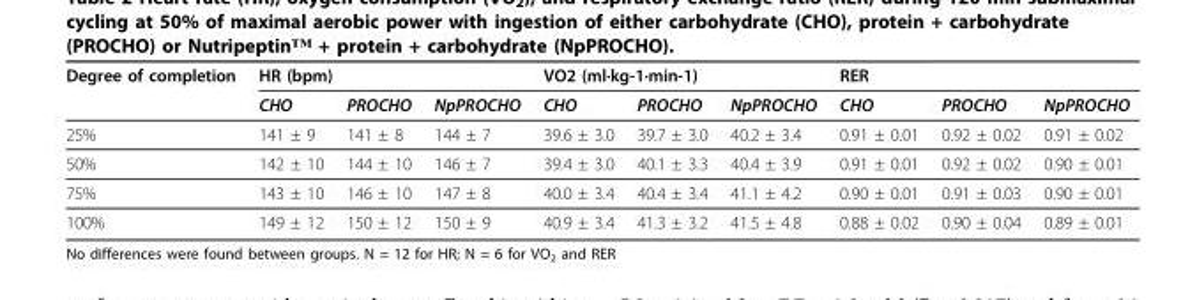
<table><thead><tr><td rowspan="2">Degree of completion</td><td colspan="3">HR (bpm)</td><td colspan="3">VO2 (ml·kg-1·min-1)</td><td colspan="3">RER</td></tr><tr><td>CHO</td><td>PROCHO</td><td>NpPROCHO</td><td>CHO</td><td>PROCHO</td><td>NpPROCHO</td><td>CHO</td><td>PROCHO</td><td>NpPROCHO</td></tr></thead><tbody><tr><td>25%</td><td>141 ± 9</td><td>141 ± 8</td><td>144 ± 7</td><td>39.6 ± 3.0</td><td>39.7 ± 3.0</td><td>40.2 ± 3.4</td><td>0.91 ± 0.01</td><td>0.92 ± 0.02</td><td>0.91 ± 0.02</td></tr><tr><td>50%</td><td>142 ± 10</td><td>144 ± 10</td><td>146 ± 7</td><td>39.4 ± 3.0</td><td>40.1 ± 3.3</td><td>40.4 ± 3.9</td><td>0.91 ± 0.01</td><td>0.92 ± 0.02</td><td>0.90 ± 0.01</td></tr><tr><td>75%</td><td>143 ± 10</td><td>146 ± 10</td><td>147 ± 8</td><td>40.0 ± 3.4</td><td>40.4 ± 3.4</td><td>41.1 ± 4.2</td><td>0.90 ± 0.01</td><td>0.91 ± 0.03</td><td>0.90 ± 0.01</td></tr><tr><td>100%</td><td>149 ± 12</td><td>150 ± 12</td><td>150 ± 9</td><td>40.9 ± 3.4</td><td>41.3 ± 3.2</td><td>41.5 ± 4.8</td><td>0.88 ± 0.02</td><td>0.90 ± 0.04</td><td>0.89 ± 0.01</td></tr></tbody></table>